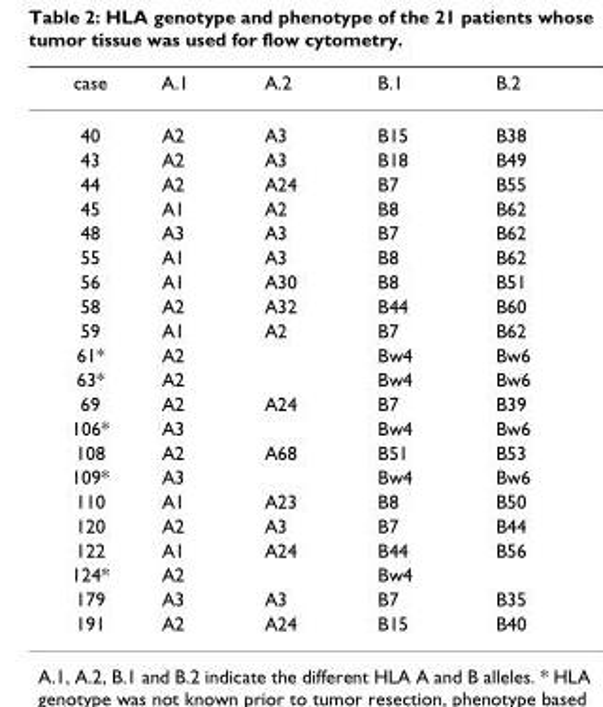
<table><thead><tr><td>case</td><td>A.1</td><td>A.2</td><td>B.1</td><td>B.2</td></tr></thead><tbody><tr><td>40</td><td>A2</td><td>A3</td><td>B15</td><td>B38</td></tr><tr><td>43</td><td>A2</td><td>A3</td><td>B18</td><td>B49</td></tr><tr><td>44</td><td>A2</td><td>A24</td><td>B7</td><td>B55</td></tr><tr><td>45</td><td>A1</td><td>A2</td><td>B8</td><td>B62</td></tr><tr><td>48</td><td>A3</td><td>A3</td><td>B7</td><td>B62</td></tr><tr><td>55</td><td>A1</td><td>A3</td><td>B8</td><td>B62</td></tr><tr><td>56</td><td>A1</td><td>A30</td><td>B8</td><td>B51</td></tr><tr><td>58</td><td>A2</td><td>A32</td><td>B44</td><td>B60</td></tr><tr><td>59</td><td>A1</td><td>A2</td><td>B7</td><td>B62</td></tr><tr><td>61*</td><td>A2</td><td></td><td>Bw4</td><td>Bw6</td></tr><tr><td>63*</td><td>A2</td><td></td><td>Bw4</td><td>Bw6</td></tr><tr><td>69</td><td>A2</td><td>A24</td><td>B7</td><td>B39</td></tr><tr><td>106*</td><td>A3</td><td></td><td>Bw4</td><td>Bw6</td></tr><tr><td>108</td><td>A2</td><td>A68</td><td>B51</td><td>B53</td></tr><tr><td>109*</td><td>A3</td><td></td><td>Bw4</td><td>Bw6</td></tr><tr><td>110</td><td>A1</td><td>A23</td><td>B8</td><td>B50</td></tr><tr><td>120</td><td>A2</td><td>A3</td><td>B7</td><td>B44</td></tr><tr><td>122</td><td>A1</td><td>A24</td><td>B44</td><td>B56</td></tr><tr><td>124*</td><td>A2</td><td></td><td>Bw4</td><td></td></tr><tr><td>179</td><td>A3</td><td>A3</td><td>B7</td><td>B35</td></tr><tr><td>191</td><td>A2</td><td>A24</td><td>B15</td><td>B40</td></tr></tbody></table>